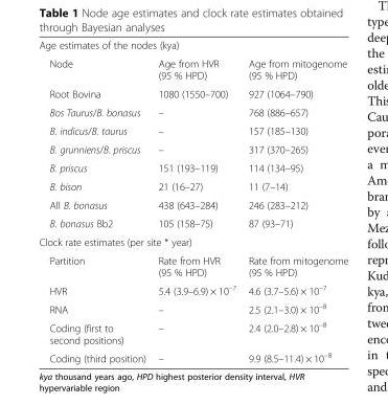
<table><tbody><tr><td colspan="3">Age estimates of the nodes (kya)</td></tr><tr><td>Node</td><td>Age from HVR (95 % HPD)</td><td>Age from mitogenome (95 % HPD)</td></tr><tr><td>Root Bovina</td><td>1080 (1550–700)</td><td>927 (1064–790)</td></tr><tr><td>Bos Taurus/B. bonasus</td><td>–</td><td>768 (886–657)</td></tr><tr><td>B. indicus/B. taurus</td><td>–</td><td>157 (185–130)</td></tr><tr><td>B. grunniens/B. priscus</td><td>–</td><td>317 (370–265)</td></tr><tr><td>B. priscus</td><td>151 (193–119)</td><td>114 (134–95)</td></tr><tr><td>B. bison</td><td>21 (16–27)</td><td>11 (7–14)</td></tr><tr><td>All B. bonasus</td><td>438 (643–284)</td><td>246 (283–212)</td></tr><tr><td>B. bonasus Bb2</td><td>105 (158–75)</td><td>87 (93–71)</td></tr><tr><td colspan="3">Clock rate estimates (per site * year)</td></tr><tr><td>Partition</td><td>Rate from HVR (95 % HPD)</td><td>Rate from mitogenome (95 % HPD)</td></tr><tr><td>HVR</td><td>5.4 (3.9–6.9) × 10<sup>–7</sup></td><td>4.6 (3.7–5.6) × 10<sup>–7</sup></td></tr><tr><td>RNA</td><td>–</td><td>2.5 (2.1–3.0) × 10<sup>–8</sup></td></tr><tr><td>Coding (first to second positions)</td><td>–</td><td>2.4 (2.0–2.8) × 10<sup>–8</sup></td></tr><tr><td>Coding (third position)</td><td>–</td><td>9.9 (8.5–11.4) × 10<sup>–8</sup></td></tr></tbody></table>